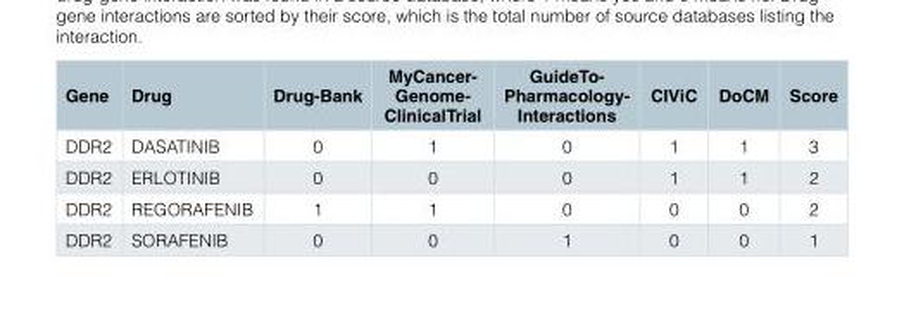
<table><thead><tr><td>Gene</td><td>Drug</td><td>Drug-Bank</td><td>MyCancer- Genome- ClinicalTrial</td><td>GuideTo- Pharmacology- Interactions</td><td>CIViC</td><td>DoCM</td><td>Score</td></tr></thead><tbody><tr><td>DDR2</td><td>DASATINIB</td><td>0</td><td>1</td><td>0</td><td>1</td><td>1</td><td>3</td></tr><tr><td>DDR2</td><td>ERLOTINIB</td><td>0</td><td>0</td><td>0</td><td>1</td><td>1</td><td>2</td></tr><tr><td>DDR2</td><td>REGORAFENIB</td><td>1</td><td>1</td><td>0</td><td>0</td><td>0</td><td>2</td></tr><tr><td>DDR2</td><td>SORAFENIB</td><td>0</td><td>0</td><td>1</td><td>0</td><td>0</td><td>1</td></tr></tbody></table>